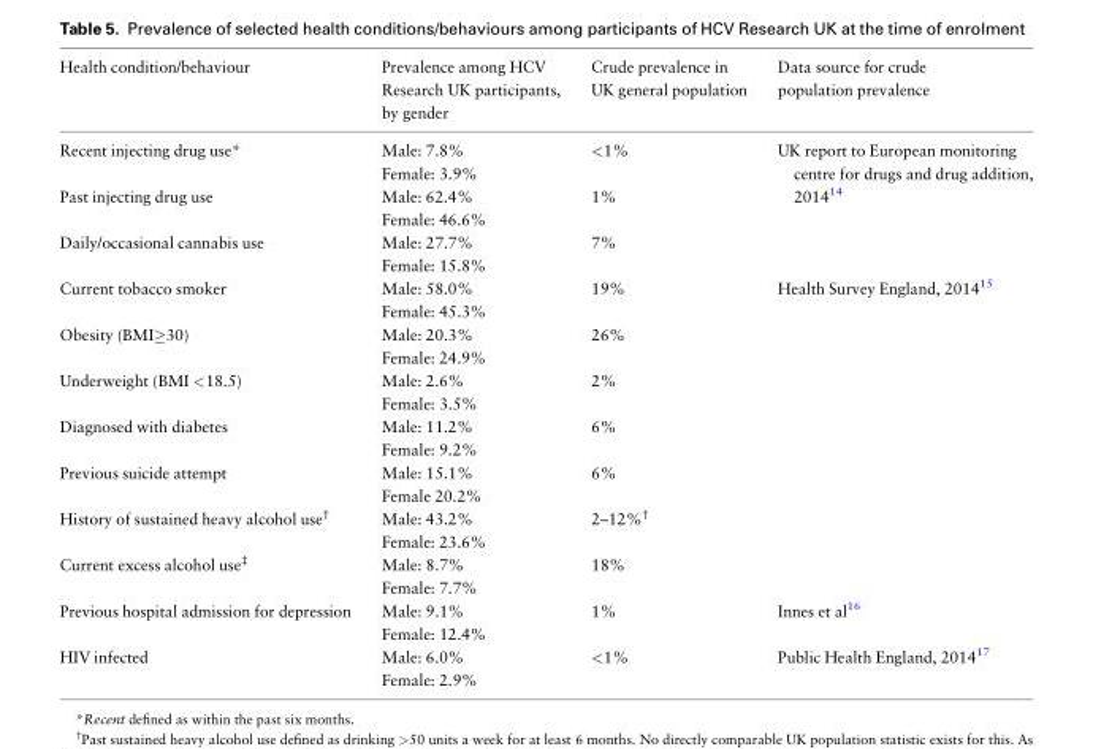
<table><thead><tr><td>Health condition/behaviour</td><td>Prevalence among HCV Research UK participants, by gender</td><td>Crude prevalence in UK general population</td><td>Data source for crude population prevalence</td></tr></thead><tbody><tr><td rowspan="2">Recent injecting drug use*</td><td>Male: 7.8%</td><td rowspan="2">&lt;1%</td><td rowspan="6">UK report to European monitoring centre for drugs and drug addition, 2014<sup>14</sup></td></tr><tr><td>Female: 3.9%</td></tr><tr><td rowspan="2">Past injecting drug use</td><td>Male: 62.4%</td><td rowspan="2">1%</td></tr><tr><td>Female: 46.6%</td></tr><tr><td rowspan="2">Daily/occasional cannabis use</td><td>Male: 27.7%</td><td rowspan="2">7%</td></tr><tr><td>Female: 15.8%</td></tr><tr><td rowspan="2">Current tobacco smoker</td><td>Male: 58.0%</td><td rowspan="2">19%</td><td rowspan="14">Health Survey England, 2014<sup>15</sup></td></tr><tr><td>Female: 45.3%</td></tr><tr><td rowspan="2">Obesity (BMI≥30)</td><td>Male: 20.3%</td><td rowspan="2">26%</td></tr><tr><td>Female: 24.9%</td></tr><tr><td rowspan="2">Underweight (BMI &lt;18.5)</td><td>Male: 2.6%</td><td rowspan="2">2%</td></tr><tr><td>Female: 3.5%</td></tr><tr><td rowspan="2">Diagnosed with diabetes</td><td>Male: 11.2%</td><td rowspan="2">6%</td></tr><tr><td>Female: 9.2%</td></tr><tr><td rowspan="2">Previous suicide attempt</td><td>Male: 15.1%</td><td rowspan="2">6%</td></tr><tr><td>Female 20.2%</td></tr><tr><td rowspan="2">History of sustained heavy alcohol use<sup>†</sup></td><td>Male: 43.2%</td><td rowspan="2">2–12%<sup>†</sup></td></tr><tr><td>Female: 23.6%</td></tr><tr><td rowspan="2">Current excess alcohol use<sup>‡</sup></td><td>Male: 8.7%</td><td rowspan="2">18%</td></tr><tr><td>Female: 7.7%</td></tr><tr><td rowspan="2">Previous hospital admission for depression</td><td>Male: 9.1%</td><td rowspan="2">1%</td><td rowspan="2">Innes et al<sup>16</sup></td></tr><tr><td>Female: 12.4%</td></tr><tr><td rowspan="2">HIV infected</td><td>Male: 6.0%</td><td rowspan="2">&lt;1%</td><td rowspan="2">Public Health England, 2014<sup>17</sup></td></tr><tr><td>Female: 2.9%</td></tr></tbody></table>